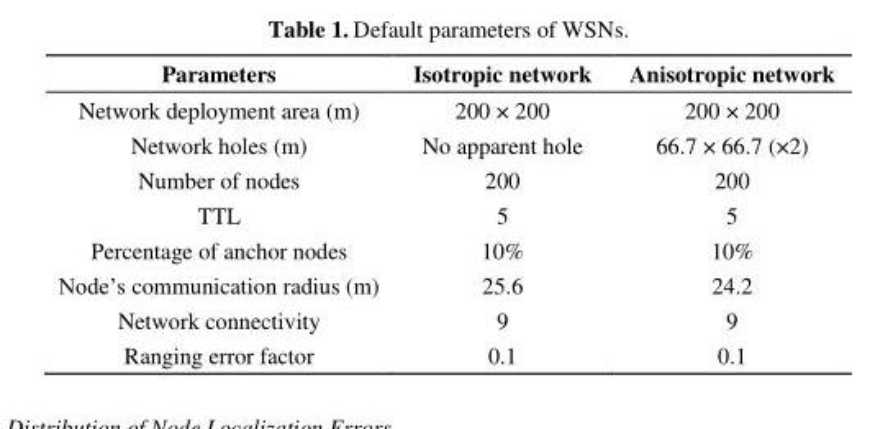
<table><thead><tr><td>Parameters</td><td>Isotropic network</td><td>Anisotropic network</td></tr></thead><tbody><tr><td>Network deployment area (m)</td><td>200 × 200</td><td>200 × 200</td></tr><tr><td>Network holes (m)</td><td>No apparent hole</td><td>66.7 × 66.7 (×2)</td></tr><tr><td>Number of nodes</td><td>200</td><td>200</td></tr><tr><td>TTL</td><td>5</td><td>5</td></tr><tr><td>Percentage of anchor nodes</td><td>10%</td><td>10%</td></tr><tr><td>Node‟s communication radius (m)</td><td>25.6</td><td>24.2</td></tr><tr><td>Network connectivity</td><td>9</td><td>9</td></tr><tr><td>Ranging error factor</td><td>0.1</td><td>0.1</td></tr></tbody></table>